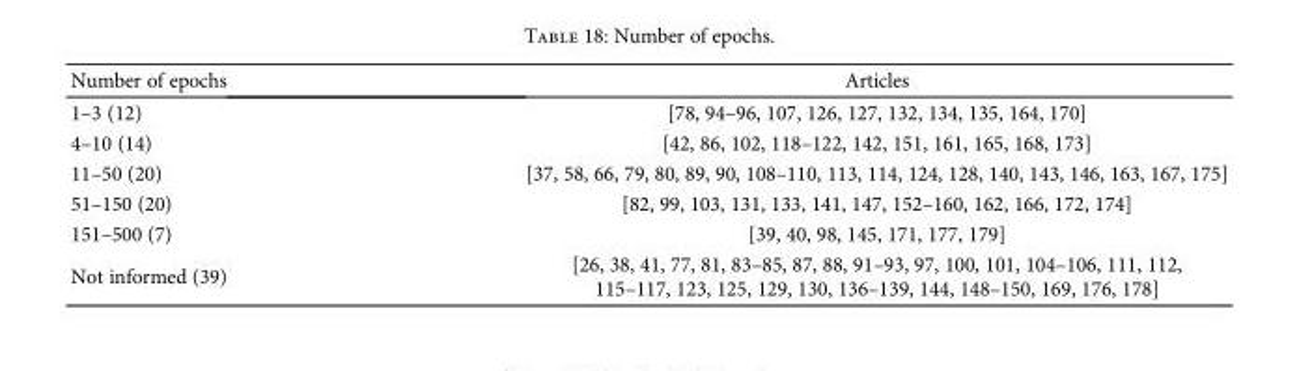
<table><thead><tr><td>Number of epochs</td><td>Articles</td></tr></thead><tbody><tr><td>1–3 (12)</td><td>[78, 94–96, 107, 126, 127, 132, 134, 135, 164, 170]</td></tr><tr><td>4–10 (14)</td><td>[42, 86, 102, 118–122, 142, 151, 161, 165, 168, 173]</td></tr><tr><td>11–50 (20)</td><td>[37, 58, 66, 79, 80, 89, 90, 108–110, 113, 114, 124, 128, 140, 143, 146, 163, 167, 175]</td></tr><tr><td>51–150 (20)</td><td>[82, 99, 103, 131, 133, 141, 147, 152–160, 162, 166, 172, 174]</td></tr><tr><td>151–500 (7)</td><td>[39, 40, 98, 145, 171, 177, 179]</td></tr><tr><td>Not informed (39)</td><td>[26, 38, 41, 77, 81, 83–85, 87, 88, 91–93, 97, 100, 101, 104–106, 111, 112, 115–117, 123, 125, 129, 130, 136–139, 144, 148–150, 169, 176, 178]</td></tr></tbody></table>